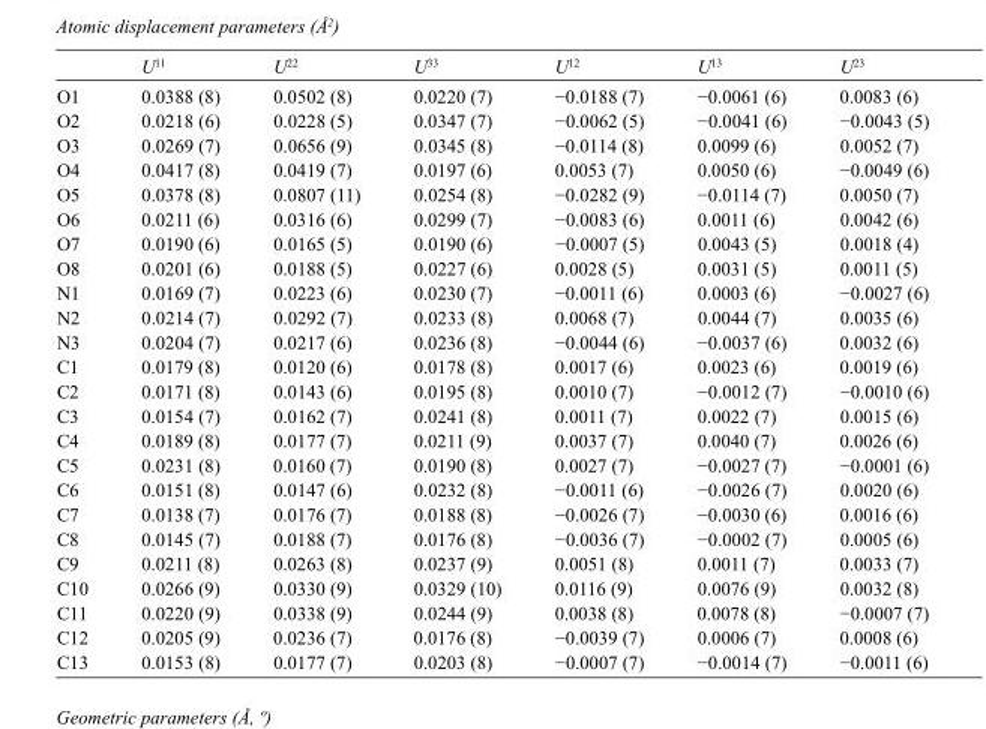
<table><thead><tr><td></td><td>U<sup>11</sup></td><td>U<sup>22</sup></td><td>U<sup>33</sup></td><td>U<sup>12</sup></td><td>U<sup>13</sup></td><td>U<sup>23</sup></td></tr></thead><tbody><tr><td>O1</td><td>0.0388 (8)</td><td>0.0502 (8)</td><td>0.0220 (7)</td><td>−0.0188 (7)</td><td>−0.0061 (6)</td><td>0.0083 (6)</td></tr><tr><td>O2</td><td>0.0218 (6)</td><td>0.0228 (5)</td><td>0.0347 (7)</td><td>−0.0062 (5)</td><td>−0.0041 (6)</td><td>−0.0043 (5)</td></tr><tr><td>O3</td><td>0.0269 (7)</td><td>0.0656 (9)</td><td>0.0345 (8)</td><td>−0.0114 (8)</td><td>0.0099 (6)</td><td>0.0052 (7)</td></tr><tr><td>O4</td><td>0.0417 (8)</td><td>0.0419 (7)</td><td>0.0197 (6)</td><td>0.0053 (7)</td><td>0.0050 (6)</td><td>−0.0049 (6)</td></tr><tr><td>O5</td><td>0.0378 (8)</td><td>0.0807 (11)</td><td>0.0254 (8)</td><td>−0.0282 (9)</td><td>−0.0114 (7)</td><td>0.0050 (7)</td></tr><tr><td>O6</td><td>0.0211 (6)</td><td>0.0316 (6)</td><td>0.0299 (7)</td><td>−0.0083 (6)</td><td>0.0011 (6)</td><td>0.0042 (6)</td></tr><tr><td>O7</td><td>0.0190 (6)</td><td>0.0165 (5)</td><td>0.0190 (6)</td><td>−0.0007 (5)</td><td>0.0043 (5)</td><td>0.0018 (4)</td></tr><tr><td>O8</td><td>0.0201 (6)</td><td>0.0188 (5)</td><td>0.0227 (6)</td><td>0.0028 (5)</td><td>0.0031 (5)</td><td>0.0011 (5)</td></tr><tr><td>N1</td><td>0.0169 (7)</td><td>0.0223 (6)</td><td>0.0230 (7)</td><td>−0.0011 (6)</td><td>0.0003 (6)</td><td>−0.0027 (6)</td></tr><tr><td>N2</td><td>0.0214 (7)</td><td>0.0292 (7)</td><td>0.0233 (8)</td><td>0.0068 (7)</td><td>0.0044 (7)</td><td>0.0035 (6)</td></tr><tr><td>N3</td><td>0.0204 (7)</td><td>0.0217 (6)</td><td>0.0236 (8)</td><td>−0.0044 (6)</td><td>−0.0037 (6)</td><td>0.0032 (6)</td></tr><tr><td>C1</td><td>0.0179 (8)</td><td>0.0120 (6)</td><td>0.0178 (8)</td><td>0.0017 (6)</td><td>0.0023 (6)</td><td>0.0019 (6)</td></tr><tr><td>C2</td><td>0.0171 (8)</td><td>0.0143 (6)</td><td>0.0195 (8)</td><td>0.0010 (7)</td><td>−0.0012 (7)</td><td>−0.0010 (6)</td></tr><tr><td>C3</td><td>0.0154 (7)</td><td>0.0162 (7)</td><td>0.0241 (8)</td><td>0.0011 (7)</td><td>0.0022 (7)</td><td>0.0015 (6)</td></tr><tr><td>C4</td><td>0.0189 (8)</td><td>0.0177 (7)</td><td>0.0211 (9)</td><td>0.0037 (7)</td><td>0.0040 (7)</td><td>0.0026 (6)</td></tr><tr><td>C5</td><td>0.0231 (8)</td><td>0.0160 (7)</td><td>0.0190 (8)</td><td>0.0027 (7)</td><td>−0.0027 (7)</td><td>−0.0001 (6)</td></tr><tr><td>C6</td><td>0.0151 (8)</td><td>0.0147 (6)</td><td>0.0232 (8)</td><td>−0.0011 (6)</td><td>−0.0026 (7)</td><td>0.0020 (6)</td></tr><tr><td>C7</td><td>0.0138 (7)</td><td>0.0176 (7)</td><td>0.0188 (8)</td><td>−0.0026 (7)</td><td>−0.0030 (6)</td><td>0.0016 (6)</td></tr><tr><td>C8</td><td>0.0145 (7)</td><td>0.0188 (7)</td><td>0.0176 (8)</td><td>−0.0036 (7)</td><td>−0.0002 (7)</td><td>0.0005 (6)</td></tr><tr><td>C9</td><td>0.0211 (8)</td><td>0.0263 (8)</td><td>0.0237 (9)</td><td>0.0051 (8)</td><td>0.0011 (7)</td><td>0.0033 (7)</td></tr><tr><td>C10</td><td>0.0266 (9)</td><td>0.0330 (9)</td><td>0.0329 (10)</td><td>0.0116 (9)</td><td>0.0076 (9)</td><td>0.0032 (8)</td></tr><tr><td>C11</td><td>0.0220 (9)</td><td>0.0338 (9)</td><td>0.0244 (9)</td><td>0.0038 (8)</td><td>0.0078 (8)</td><td>−0.0007 (7)</td></tr><tr><td>C12</td><td>0.0205 (9)</td><td>0.0236 (7)</td><td>0.0176 (8)</td><td>−0.0039 (7)</td><td>0.0006 (7)</td><td>0.0008 (6)</td></tr><tr><td>C13</td><td>0.0153 (8)</td><td>0.0177 (7)</td><td>0.0203 (8)</td><td>−0.0007 (7)</td><td>−0.0014 (7)</td><td>−0.0011 (6)</td></tr></tbody></table>